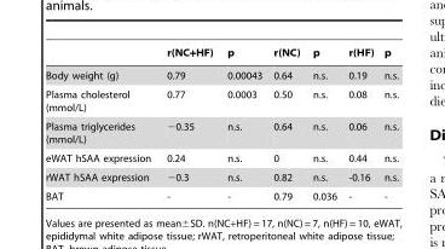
<table><thead><tr><td></td><td>r(NC+HF)</td><td>p</td><td>r(NC)</td><td>p</td><td>r(HF)</td><td>p</td></tr></thead><tbody><tr><td>Body weight (g)</td><td>0.79</td><td>0.00043</td><td>0.64</td><td>n.s.</td><td>0.19</td><td>n.s.</td></tr><tr><td>Plasma cholesterol (mmol/L)</td><td>0.77</td><td>0.0003</td><td>0.50</td><td>n.s.</td><td>0.08</td><td>n.s.</td></tr><tr><td>Plasma triglycerides (mmol/L)</td><td>−0.35</td><td>n.s.</td><td>0.64</td><td>n.s.</td><td>0.06</td><td>n.s.</td></tr><tr><td>eWAT hSAA expression</td><td>0.24</td><td>n.s.</td><td>0</td><td>n.s.</td><td>0.44</td><td>n.s.</td></tr><tr><td>rWAT hSAA expression</td><td>−0.3</td><td>n.s.</td><td>0.82</td><td>n.s.</td><td>-0.16</td><td>n.s.</td></tr><tr><td>BAT</td><td>-</td><td>-</td><td>0.79</td><td>0.036</td><td>-</td><td>-</td></tr></tbody></table>